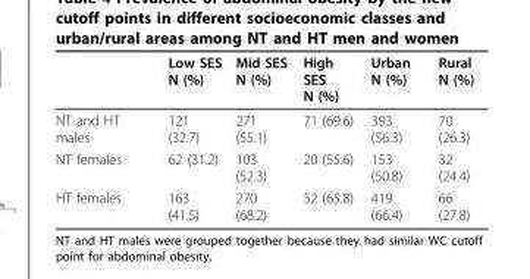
<table><thead><tr><td></td><td>Low SES N (%)</td><td>Mid SES N (%)</td><td>High SES N (%)</td><td>Urban N (%)</td><td>Rural N (%)</td></tr></thead><tbody><tr><td>NT and HT males</td><td>121 (32.7)</td><td>271 (55.1)</td><td>71 (69.6)</td><td>393 (56.3)</td><td>70 (26.3)</td></tr><tr><td>NT females</td><td>62 (31.2)</td><td>103 (52.3)</td><td>20 (55.6)</td><td>153 (50.8)</td><td>32 (24.4)</td></tr><tr><td>HT females</td><td>163 (41.5)</td><td>270 (68.2)</td><td>52 (65.8)</td><td>419 (66.4)</td><td>66 (27.8)</td></tr></tbody></table>